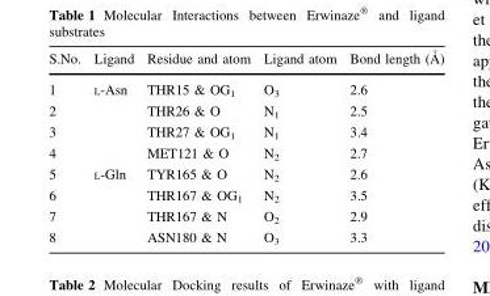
<table><thead><tr><td>S.No.</td><td>Ligand</td><td>Residue and atom</td><td>Ligand atom</td><td>Bond length (A˚</td></tr></thead><tbody><tr><td>1</td><td rowspan="4">L-Asn</td><td>THR15 &amp; OG<sub>1</sub></td><td>O<sub>3</sub></td><td>2.6</td></tr><tr><td>2</td><td>THR26 &amp; O</td><td>N<sub>1</sub></td><td>2.5</td></tr><tr><td>3</td><td>THR27 &amp; OG<sub>1</sub></td><td>N<sub>1</sub></td><td>3.4</td></tr><tr><td>4</td><td>MET121 &amp; O</td><td>N<sub>2</sub></td><td>2.7</td></tr><tr><td>5</td><td>L-Gln</td><td>TYR165 &amp; O</td><td>N<sub>2</sub></td><td>2.6</td></tr><tr><td>6</td><td rowspan="3"></td><td>THR167 &amp; OG<sub>1</sub></td><td>N<sub>2</sub></td><td>3.5</td></tr><tr><td>7</td><td>THR167 &amp; N</td><td>O<sub>2</sub></td><td>2.9</td></tr><tr><td>8</td><td>ASN180 &amp; N</td><td>O<sub>3</sub></td><td>3.3</td></tr></tbody></table>